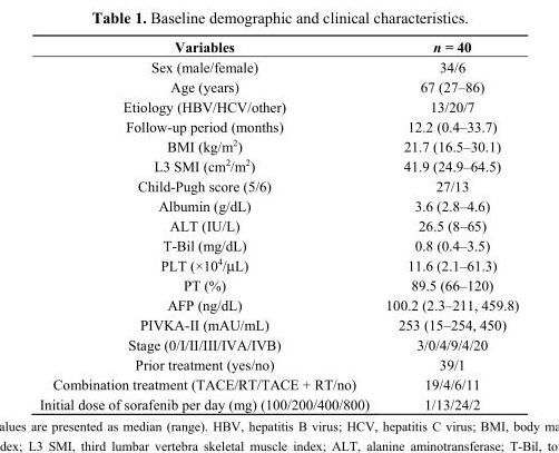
<table><thead><tr><td>Variables</td><td>n = 40</td></tr></thead><tbody><tr><td>Sex (male/female)</td><td>34/6</td></tr><tr><td>Age (years)</td><td>67 (27–86)</td></tr><tr><td>Etiology (HBV/HCV/other)</td><td>13/20/7</td></tr><tr><td>Follow-up period (months)</td><td>12.2 (0.4–33.7)</td></tr><tr><td>BMI (kg/m<sup>2</sup>)</td><td>21.7 (16.5–30.1)</td></tr><tr><td>L3 SMI (cm<sup>2</sup>/m<sup>2</sup>)</td><td>41.9 (24.9–64.5)</td></tr><tr><td>Child-Pugh score (5/6)</td><td>27/13</td></tr><tr><td>Albumin (g/dL)</td><td>3.6 (2.8–4.6)</td></tr><tr><td>ALT (IU/L)</td><td>26.5 (8–65)</td></tr><tr><td>T-Bil (mg/dL)</td><td>0.8 (0.4–3.5)</td></tr><tr><td>PLT (×10<sup>4</sup>/μL)</td><td>11.6 (2.1–61.3)</td></tr><tr><td>PT (%)</td><td>89.5 (66–120)</td></tr><tr><td>AFP (ng/dL)</td><td>100.2 (2.3–211, 459.8)</td></tr><tr><td>PIVKA-II (mAU/mL)</td><td>253 (15–254, 450)</td></tr><tr><td>Stage (0/I/II/III/IVA/IVB)</td><td>3/0/4/9/4/20</td></tr><tr><td>Prior treatment (yes/no)</td><td>39/1</td></tr><tr><td>Combination treatment (TACE/RT/TACE + RT/no)</td><td>19/4/6/11</td></tr><tr><td>Initial dose of sorafenib per day (mg) (100/200/400/800)</td><td>1/13/24/2</td></tr></tbody></table>